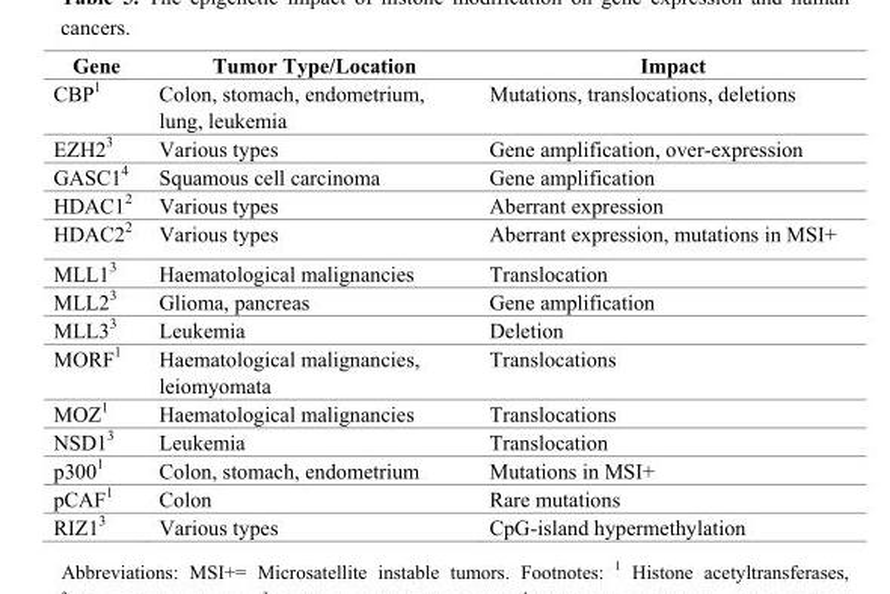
<table><thead><tr><td>Gene</td><td>Tumor Type/Location</td><td>Impact</td></tr></thead><tbody><tr><td>CBP<sup>1</sup></td><td>Colon, stomach, endometrium, lung, leukemia</td><td>Mutations, translocations, deletions</td></tr><tr><td>EZH2<sup>3</sup></td><td>Various types</td><td>Gene amplification, over-expression</td></tr><tr><td>GASC1<sup>4</sup></td><td>Squamous cell carcinoma</td><td>Gene amplification</td></tr><tr><td>HDAC1<sup>2</sup></td><td>Various types</td><td>Aberrant expression</td></tr><tr><td>HDAC2<sup>2</sup></td><td>Various types</td><td>Aberrant expression, mutations in MSI+</td></tr><tr><td>MLL1<sup>3</sup></td><td>Haematological malignancies</td><td>Translocation</td></tr><tr><td>MLL2<sup>3</sup></td><td>Glioma, pancreas</td><td>Gene amplification</td></tr><tr><td>MLL3<sup>3</sup></td><td>Leukemia</td><td>Deletion</td></tr><tr><td>MORF<sup>1</sup></td><td>Haematological malignancies, leiomyomata</td><td>Translocations</td></tr><tr><td>MOZ<sup>1</sup></td><td>Haematological malignancies</td><td>Translocations</td></tr><tr><td>NSD1<sup>3</sup></td><td>Leukemia</td><td>Translocation</td></tr><tr><td>p300<sup>1</sup></td><td>Colon, stomach, endometrium</td><td>Mutations in MSI+</td></tr><tr><td>pCAF<sup>1</sup></td><td>Colon</td><td>Rare mutations</td></tr><tr><td>RIZ1<sup>3</sup></td><td>Various types</td><td>CpG-island hypermethylation</td></tr></tbody></table>